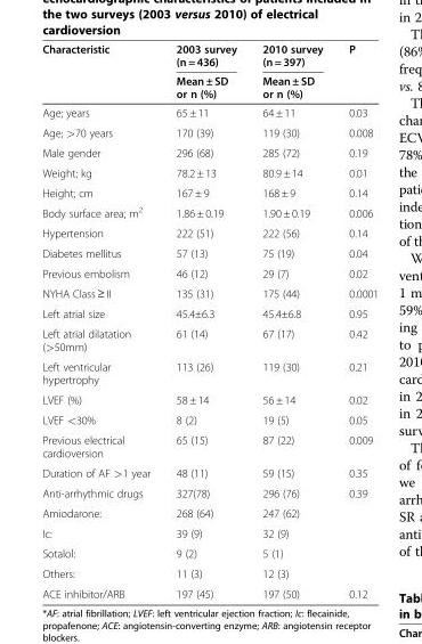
<table><thead><tr><td rowspan="2">Characteristic</td><td rowspan="2">2003 survey (n = 436) Mean ± SD or n (%)</td><td rowspan="2">2010 survey (n = 397) Mean ± SD or n (%)</td><td rowspan="2">P</td></tr><tr></tr></thead><tbody><tr><td>Age; years</td><td>65 ± 11</td><td>64 ± 11</td><td>0.03</td></tr><tr><td>Age; &gt;70 years</td><td>170 (39)</td><td>119 (30)</td><td>0.008</td></tr><tr><td>Male gender</td><td>296 (68)</td><td>285 (72)</td><td>0.19</td></tr><tr><td>Weight; kg</td><td>78.2 ± 13</td><td>80.9 ± 14</td><td>0.01</td></tr><tr><td>Height; cm</td><td>167 ± 9</td><td>168 ± 9</td><td>0.14</td></tr><tr><td>Body surface area; m<sup>2</sup></td><td>1.86 ± 0.19</td><td>1.90 ± 0.19</td><td>0.006</td></tr><tr><td>Hypertension</td><td>222 (51)</td><td>222 (56)</td><td>0.14</td></tr><tr><td>Diabetes mellitus</td><td>57 (13)</td><td>75 (19)</td><td>0.04</td></tr><tr><td>Previous embolism</td><td>46 (12)</td><td>29 (7)</td><td>0.02</td></tr><tr><td>NYHA Class ≥ II</td><td>135 (31)</td><td>175 (44)</td><td>0.0001</td></tr><tr><td>Left atrial size</td><td>45.4±6.3</td><td>45.4±6.8</td><td>0.95</td></tr><tr><td>Left atrial dilatation (&gt;50mm)</td><td>61 (14)</td><td>67 (17)</td><td>0.42</td></tr><tr><td>Left ventricular hypertrophy</td><td>113 (26)</td><td>119 (30)</td><td>0.21</td></tr><tr><td>LVEF (%)</td><td>58 ± 14</td><td>56 ± 14</td><td>0.02</td></tr><tr><td>LVEF &lt;30%</td><td>8 (2)</td><td>19 (5)</td><td>0.05</td></tr><tr><td>Previous electrical cardioversion</td><td>65 (15)</td><td>87 (22)</td><td>0.009</td></tr><tr><td>Duration of AF &gt;1 year</td><td>48 (11)</td><td>59 (15)</td><td>0.35</td></tr><tr><td>Anti-arrhythmic drugs</td><td>327(78)</td><td>296 (76)</td><td>0.39</td></tr><tr><td>Amiodarone:</td><td>268 (64)</td><td>247 (62)</td><td></td></tr><tr><td>Ic:</td><td>39 (9)</td><td>32 (9)</td><td></td></tr><tr><td>Sotalol:</td><td>9 (2)</td><td>5 (1)</td><td></td></tr><tr><td>Others:</td><td>11 (3)</td><td>12 (3)</td><td></td></tr><tr><td>ACE inhibitor/ARB</td><td>197 (45)</td><td>197 (50)</td><td>0.12</td></tr></tbody></table>